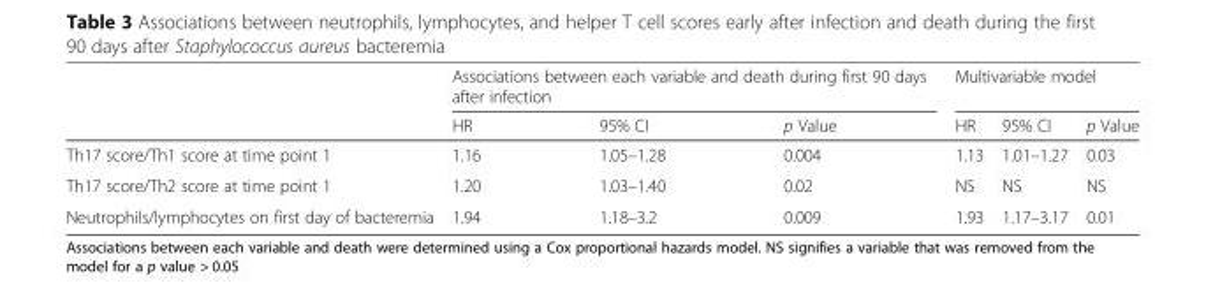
<table><thead><tr><td rowspan="2"></td><td colspan="3">Associations between each variable and death during first 90 days after infection</td><td colspan="3">Multivariable model</td></tr><tr><td>HR</td><td>95% CI</td><td>p Value</td><td>HR</td><td>95% CI</td><td>p Value</td></tr></thead><tbody><tr><td>Th17 score/Th1 score at time point 1</td><td>1.16</td><td>1.05–1.28</td><td>0.004</td><td>1.13</td><td>1.01–1.27</td><td>0.03</td></tr><tr><td>Th17 score/Th2 score at time point 1</td><td>1.20</td><td>1.03–1.40</td><td>0.02</td><td>NS</td><td>NS</td><td>NS</td></tr><tr><td>Neutrophils/lymphocytes on first day of bacteremia</td><td>1.94</td><td>1.18–3.2</td><td>0.009</td><td>1.93</td><td>1.17–3.17</td><td>0.01</td></tr></tbody></table>